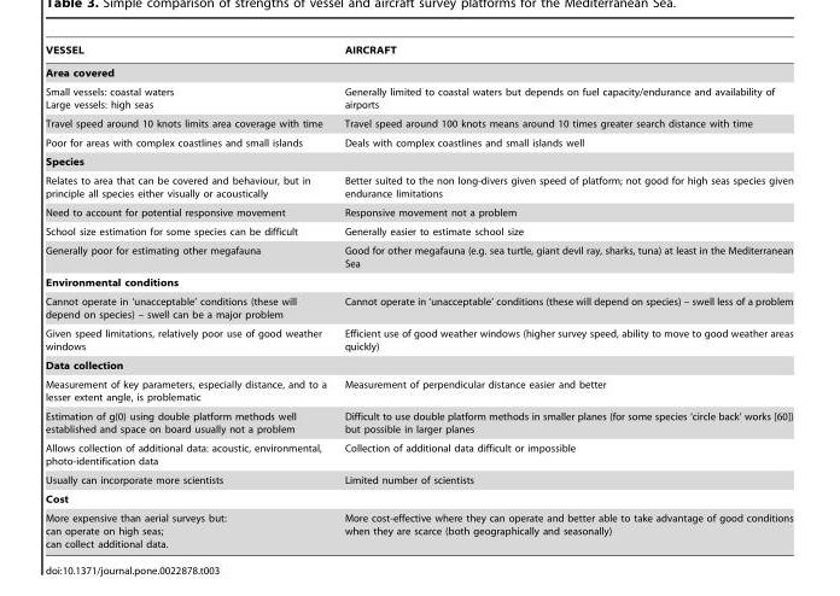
<table><thead><tr><td>VESSEL</td><td>AIRCRAFT</td></tr></thead><tbody><tr><td colspan="2">Area covered</td></tr><tr><td>Small vessels: coastal waters Large vessels: high seas</td><td>Generally limited to coastal waters but depends on fuel capacity/endurance and availability of airports</td></tr><tr><td>Travel speed around 10 knots limits area coverage with time</td><td>Travel speed around 100 knots means around 10 times greater search distance with time</td></tr><tr><td>Poor for areas with complex coastlines and small islands</td><td>Deals with complex coastlines and small islands well</td></tr><tr><td colspan="2">Species</td></tr><tr><td>Relates to area that can be covered and behaviour, but in principle all species either visually or acoustically</td><td>Better suited to the non long-divers given speed of platform; not good for high seas species given endurance limitations</td></tr><tr><td>Need to account for potential responsive movement</td><td>Responsive movement not a problem</td></tr><tr><td>School size estimation for some species can be difficult</td><td>Generally easier to estimate school size</td></tr><tr><td>Generally poor for estimating other megafauna</td><td>Good for other megafauna (e.g. sea turtle, giant devil ray, sharks, tuna) at least in the Mediterranean Sea</td></tr><tr><td colspan="2">Environmental conditions</td></tr><tr><td>Cannot operate in ‘unacceptable’ conditions (these will depend on species) – swell can be a major problem</td><td>Cannot operate in ‘unacceptable’ conditions (these will depend on species) – swell less of a problem</td></tr><tr><td>Given speed limitations, relatively poor use of good weather windows</td><td>Efficient use of good weather windows (higher survey speed, ability to move to good weather areas quickly)</td></tr><tr><td colspan="2">Data collection</td></tr><tr><td>Measurement of key parameters, especially distance, and to a lesser extent angle, is problematic</td><td>Measurement of perpendicular distance easier and better</td></tr><tr><td>Estimation of g(0) using double platform methods well established and space on board usually not a problem</td><td>Difficult to use double platform methods in smaller planes (for some species ‘circle back’ works [60]) but possible in larger planes</td></tr><tr><td>Allows collection of additional data: acoustic, environmental, photo-identification data</td><td>Collection of additional data difficult or impossible</td></tr><tr><td>Usually can incorporate more scientists</td><td>Limited number of scientists</td></tr><tr><td colspan="2">Cost</td></tr><tr><td>More expensive than aerial surveys but: can operate on high seas; can collect additional data.</td><td>More cost-effective where they can operate and better able to take advantage of good conditions when they are scarce (both geographically and seasonally)</td></tr></tbody></table>